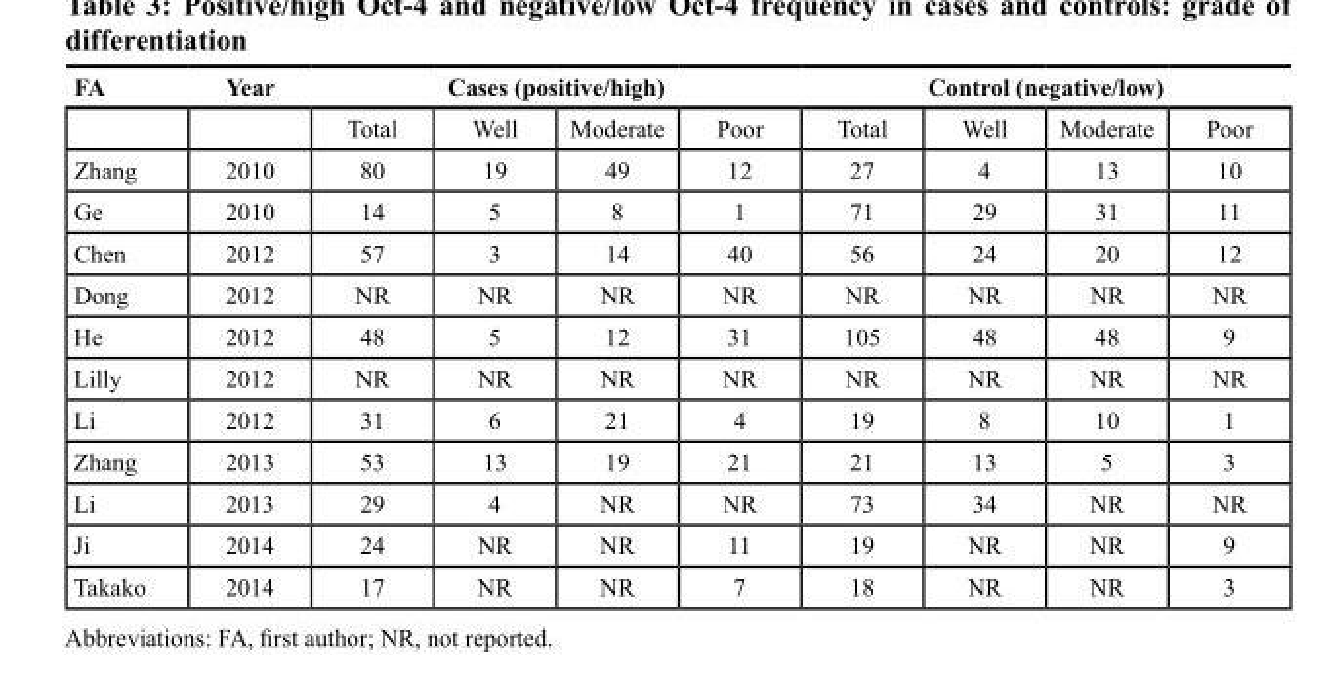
<table><thead><tr><td rowspan="2">FA</td><td rowspan="2">Year</td><td colspan="4">Cases (positive/high)</td><td colspan="4">Control (negative/low)</td></tr><tr><td>Total</td><td>Well</td><td>Moderate</td><td>Poor</td><td>Total</td><td>Well</td><td>Moderate</td><td>Poor</td></tr></thead><tbody><tr><td>Zhang</td><td>2010</td><td>80</td><td>19</td><td>49</td><td>12</td><td>27</td><td>4</td><td>13</td><td>10</td></tr><tr><td>Ge</td><td>2010</td><td>14</td><td>5</td><td>8</td><td>1</td><td>71</td><td>29</td><td>31</td><td>11</td></tr><tr><td>Chen</td><td>2012</td><td>57</td><td>3</td><td>14</td><td>40</td><td>56</td><td>24</td><td>20</td><td>12</td></tr><tr><td>Dong</td><td>2012</td><td>NR</td><td>NR</td><td>NR</td><td>NR</td><td>NR</td><td>NR</td><td>NR</td><td>NR</td></tr><tr><td>He</td><td>2012</td><td>48</td><td>5</td><td>12</td><td>31</td><td>105</td><td>48</td><td>48</td><td>9</td></tr><tr><td>Lilly</td><td>2012</td><td>NR</td><td>NR</td><td>NR</td><td>NR</td><td>NR</td><td>NR</td><td>NR</td><td>NR</td></tr><tr><td>Li</td><td>2012</td><td>31</td><td>6</td><td>21</td><td>4</td><td>19</td><td>8</td><td>10</td><td>1</td></tr><tr><td>Zhang</td><td>2013</td><td>53</td><td>13</td><td>19</td><td>21</td><td>21</td><td>13</td><td>5</td><td>3</td></tr><tr><td>Li</td><td>2013</td><td>29</td><td>4</td><td>NR</td><td>NR</td><td>73</td><td>34</td><td>NR</td><td>NR</td></tr><tr><td>Ji</td><td>2014</td><td>24</td><td>NR</td><td>NR</td><td>11</td><td>19</td><td>NR</td><td>NR</td><td>9</td></tr><tr><td>Takako</td><td>2014</td><td>17</td><td>NR</td><td>NR</td><td>7</td><td>18</td><td>NR</td><td>NR</td><td>3</td></tr></tbody></table>